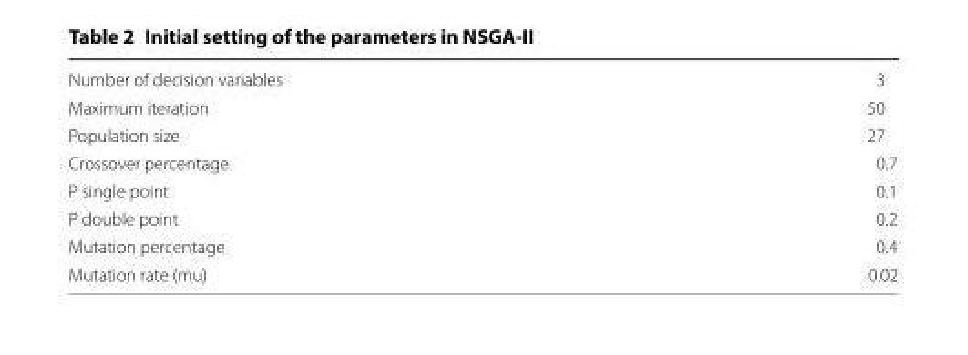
<table><tbody><tr><td>Number of decision variables</td><td>3</td></tr><tr><td>Maximum iteration</td><td>50</td></tr><tr><td>Population size</td><td>27</td></tr><tr><td>Crossover percentage</td><td>0.7</td></tr><tr><td>P single point</td><td>0.1</td></tr><tr><td>P double point</td><td>0.2</td></tr><tr><td>Mutation percentage</td><td>0.4</td></tr><tr><td>Mutation rate (mu)</td><td>0.02</td></tr></tbody></table>